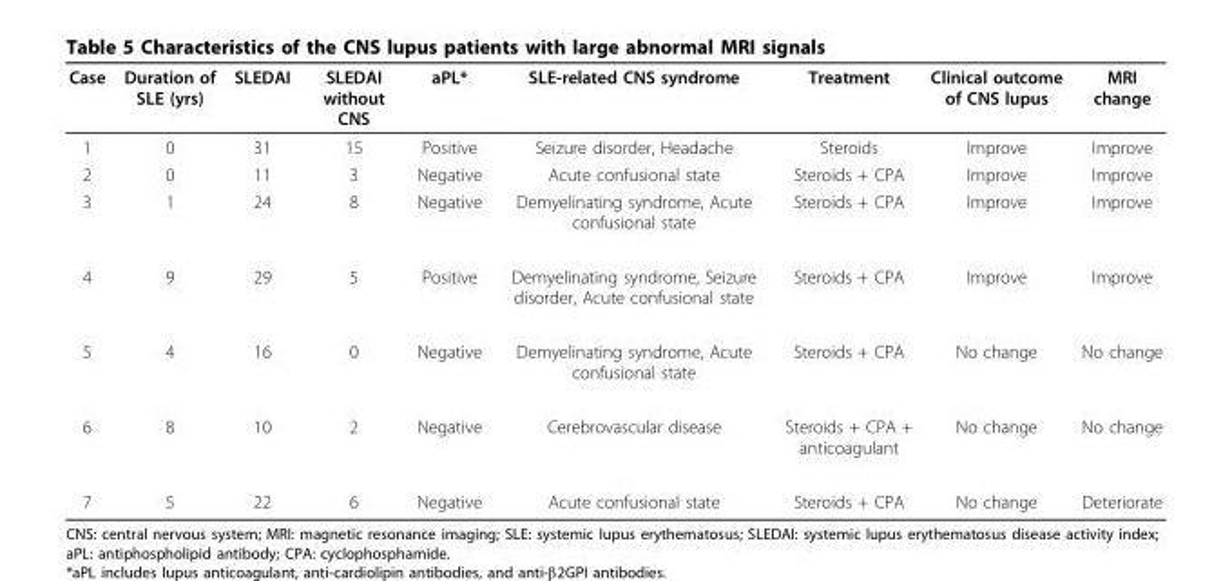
<table><thead><tr><td>Case</td><td>Duration of SLE (yrs)</td><td>SLEDAI</td><td>SLEDAI without CNS</td><td>aPL*</td><td>SLE-related CNS syndrome</td><td>Treatment</td><td>Clinical outcome of CNS lupus</td><td>MRI change</td></tr></thead><tbody><tr><td>1</td><td>0</td><td>31</td><td>15</td><td>Positive</td><td>Seizure disorder, Headache</td><td>Steroids</td><td>Improve</td><td>Improve</td></tr><tr><td>2</td><td>0</td><td>11</td><td>3</td><td>Negative</td><td>Acute confusional state</td><td>Steroids + CPA</td><td>Improve</td><td>Improve</td></tr><tr><td>3</td><td>1</td><td>24</td><td>8</td><td>Negative</td><td>Demyelinating syndrome, Acute confusional state</td><td>Steroids + CPA</td><td>Improve</td><td>Improve</td></tr><tr><td>4</td><td>9</td><td>29</td><td>5</td><td>Positive</td><td>Demyelinating syndrome, Seizure disorder, Acute confusional state</td><td>Steroids + CPA</td><td>Improve</td><td>Improve</td></tr><tr><td>5</td><td>4</td><td>16</td><td>0</td><td>Negative</td><td>Demyelinating syndrome, Acute confusional state</td><td>Steroids + CPA</td><td>No change</td><td>No change</td></tr><tr><td>6</td><td>8</td><td>10</td><td>2</td><td>Negative</td><td>Cerebrovascular disease</td><td>Steroids + CPA + anticoagulant</td><td>No change</td><td>No change</td></tr><tr><td>7</td><td>5</td><td>22</td><td>6</td><td>Negative</td><td>Acute confusional state</td><td>Steroids + CPA</td><td>No change</td><td>Deteriorate</td></tr></tbody></table>